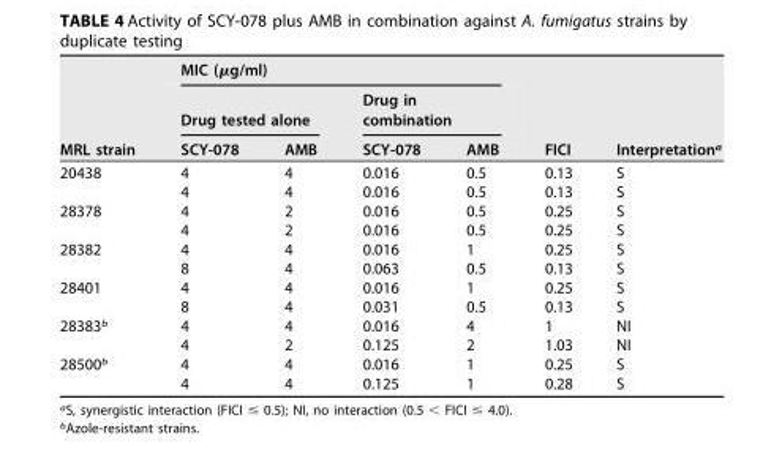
<table><thead><tr><td rowspan="3">MRL strain</td><td colspan="4">MIC (μg/ml)</td><td rowspan="3">FICI</td><td rowspan="3">Interpretation<sup>a</sup></td></tr><tr><td colspan="2">Drug tested alone</td><td colspan="2">Drug in combination</td></tr><tr><td>SCY-078</td><td>AMB</td><td>SCY-078</td><td>AMB</td></tr></thead><tbody><tr><td rowspan="2">20438</td><td>4</td><td>4</td><td>0.016</td><td>0.5</td><td>0.13</td><td>S</td></tr><tr><td>4</td><td>4</td><td>0.016</td><td>0.5</td><td>0.13</td><td>S</td></tr><tr><td rowspan="2">28378</td><td>4</td><td>2</td><td>0.016</td><td>0.5</td><td>0.25</td><td>S</td></tr><tr><td>4</td><td>2</td><td>0.016</td><td>0.5</td><td>0.25</td><td>S</td></tr><tr><td rowspan="2">28382</td><td>4</td><td>4</td><td>0.016</td><td>1</td><td>0.25</td><td>S</td></tr><tr><td>8</td><td>4</td><td>0.063</td><td>0.5</td><td>0.13</td><td>S</td></tr><tr><td rowspan="2">28401</td><td>4</td><td>4</td><td>0.016</td><td>1</td><td>0.25</td><td>S</td></tr><tr><td>8</td><td>4</td><td>0.031</td><td>0.5</td><td>0.13</td><td>S</td></tr><tr><td rowspan="2">28383<sup>b</sup></td><td>4</td><td>4</td><td>0.016</td><td>4</td><td>1</td><td>NI</td></tr><tr><td>4</td><td>2</td><td>0.125</td><td>2</td><td>1.03</td><td>NI</td></tr><tr><td rowspan="2">28500<sup>b</sup></td><td>4</td><td>4</td><td>0.016</td><td>1</td><td>0.25</td><td>S</td></tr><tr><td>4</td><td>4</td><td>0.125</td><td>1</td><td>0.28</td><td>S</td></tr></tbody></table>